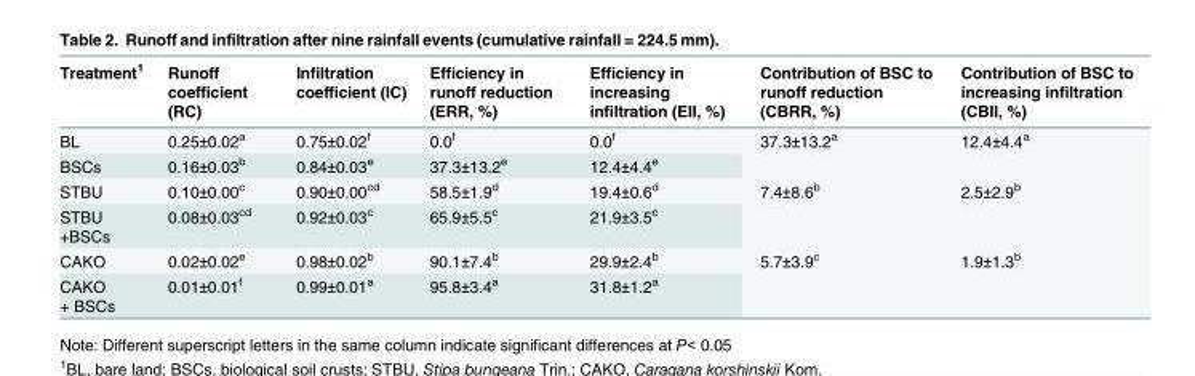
<table><thead><tr><td>Treatment<sup>1</sup></td><td>Runoff coefficient (RC)</td><td>Infiltration coefficient (IC)</td><td>Efficiency in runoff reduction (ERR, %)</td><td>Efficiency in increasing infiltration (EII, %)</td><td>Contribution of BSC to runoff reduction (CBRR, %)</td><td>Contribution of BSC to increasing infiltration (CBII, %)</td></tr></thead><tbody><tr><td>BL</td><td>0.25±0.02<sup>a</sup></td><td>0.75±0.02<sup>f</sup></td><td>0.0<sup>f</sup></td><td>0.0<sup>f</sup></td><td rowspan="2">37.3±13.2<sup>a</sup></td><td rowspan="2">12.4±4.4<sup>a</sup></td></tr><tr><td>BSCs</td><td>0.16±0.03<sup>b</sup></td><td>0.84±0.03<sup>e</sup></td><td>37.3±13.2<sup>e</sup></td><td>12.4±4.4<sup>e</sup></td></tr><tr><td>STBU</td><td>0.10±0.00<sup>c</sup></td><td>0.90±0.00<sup>cd</sup></td><td>58.5±1.9<sup>d</sup></td><td>19.4±0.6<sup>d</sup></td><td rowspan="2">7.4±8.6<sup>b</sup></td><td rowspan="2">2.5±2.9<sup>b</sup></td></tr><tr><td>STBU +BSCs</td><td>0.08±0.03<sup>cd</sup></td><td>0.92±0.03<sup>c</sup></td><td>65.9±5.5<sup>c</sup></td><td>21.9±3.5<sup>c</sup></td></tr><tr><td>CAKO</td><td>0.02±0.02<sup>e</sup></td><td>0.98±0.02<sup>b</sup></td><td>90.1±7.4<sup>b</sup></td><td>29.9±2.4<sup>b</sup></td><td rowspan="2">5.7±3.9<sup>c</sup></td><td rowspan="2">1.9±1.3<sup>b</sup></td></tr><tr><td>CAKO + BSCs</td><td>0.01±0.01<sup>f</sup></td><td>0.99±0.01<sup>a</sup></td><td>95.8±3.4<sup>a</sup></td><td>31.8±1.2<sup>a</sup></td></tr></tbody></table>